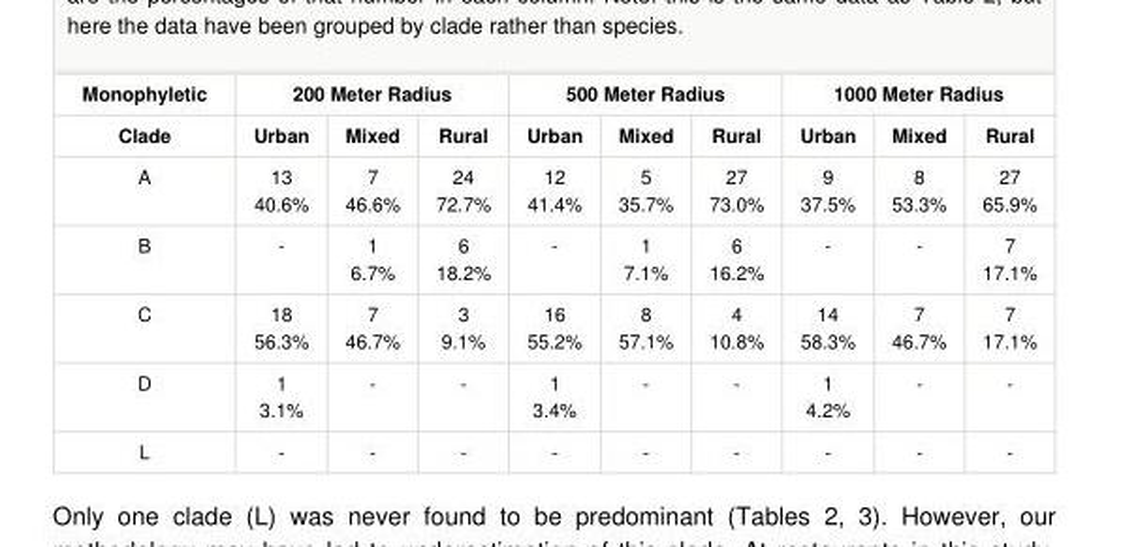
<table><tbody><tr><td>Monophyletic</td><td colspan="3">200 Meter Radius</td><td colspan="3">500 Meter Radius</td><td colspan="3">1000 Meter Radius</td></tr><tr><td>Clade</td><td>Urban</td><td>Mixed</td><td>Rural</td><td>Urban</td><td>Mixed</td><td>Rural</td><td>Urban</td><td>Mixed</td><td>Rural</td></tr><tr><td>A</td><td>13 40.6%</td><td>7 46.6%</td><td>24 72.7%</td><td>12 41.4%</td><td>5 35.7%</td><td>27 73.0%</td><td>9 37.5%</td><td>8 53.3%</td><td>27 65.9%</td></tr><tr><td>B</td><td>-</td><td>1 6.7%</td><td>6 18.2%</td><td>-</td><td>1 7.1%</td><td>6 16.2%</td><td>-</td><td>-</td><td>7 17.1%</td></tr><tr><td>C</td><td>18 56.3%</td><td>7 46.7%</td><td>3 9.1%</td><td>16 55.2%</td><td>8 57.1%</td><td>4 10.8%</td><td>14 58.3%</td><td>7 46.7%</td><td>7 17.1%</td></tr><tr><td>D</td><td>1 3.1%</td><td>-</td><td>-</td><td>1 3.4%</td><td>-</td><td>-</td><td>1 4.2%</td><td>-</td><td>-</td></tr><tr><td>L</td><td>-</td><td>-</td><td>-</td><td>-</td><td>-</td><td>-</td><td>-</td><td>-</td><td>-</td></tr></tbody></table>